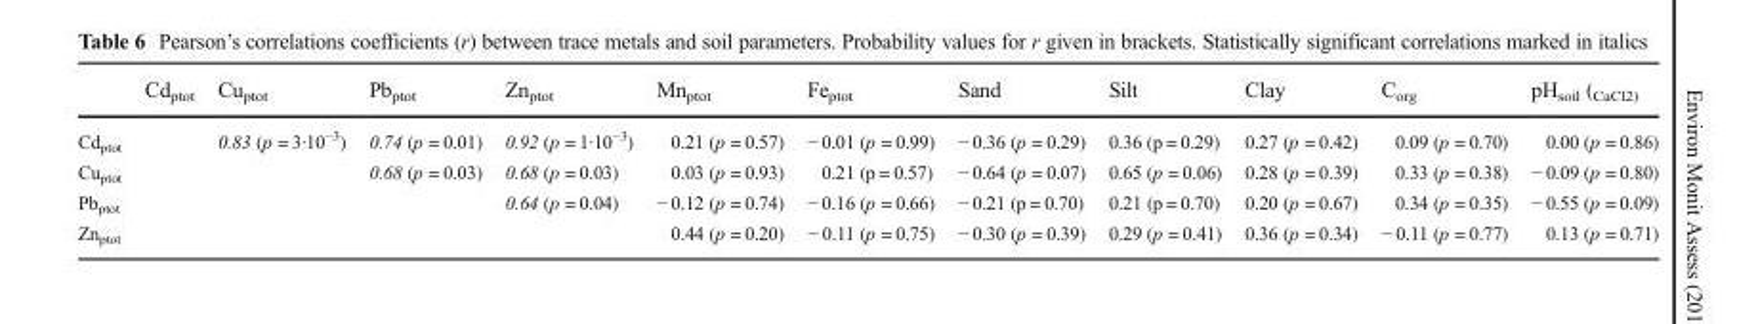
<table><thead><tr><td></td><td>Cd<sub>ptot</sub></td><td>Cu<sub>ptot</sub></td><td>Pb<sub>ptot</sub></td><td>Zn<sub>ptot</sub></td><td>Mn<sub>ptot</sub></td><td>Fe<sub>ptot</sub></td><td>Sand</td><td>Silt</td><td>Clay</td><td>C<sub>org</sub></td><td>pH<sub>soil</sub> (<sub>CaCl2)</sub></td></tr></thead><tbody><tr><td>Cd<sub>ptot</sub></td><td></td><td>0.83 (p = 3·10<sup>−3</sup>)</td><td>0.74 (p = 0.01)</td><td>0.92 (p = 1·10<sup>−3</sup>)</td><td>0.21 (p = 0.57)</td><td>− 0.01 (p = 0.99)</td><td>− 0.36 (p = 0.29)</td><td>0.36 (p = 0.29)</td><td>0.27 (p = 0.42)</td><td>0.09 (p = 0.70)</td><td>0.00 (p = 0.86)</td></tr><tr><td>Cu<sub>ptot</sub></td><td></td><td></td><td>0.68 (p = 0.03)</td><td>0.68 (p = 0.03)</td><td>0.03 (p = 0.93)</td><td>0.21 (p = 0.57)</td><td>− 0.64 (p = 0.07)</td><td>0.65 (p = 0.06)</td><td>0.28 (p = 0.39)</td><td>0.33 (p = 0.38)</td><td>− 0.09 (p = 0.80)</td></tr><tr><td>Pb<sub>ptot</sub></td><td></td><td></td><td></td><td>0.64 (p = 0.04)</td><td>− 0.12 (p = 0.74)</td><td>− 0.16 (p = 0.66)</td><td>− 0.21 (p = 0.70)</td><td>0.21 (p = 0.70)</td><td>0.20 (p = 0.67)</td><td>0.34 (p = 0.35)</td><td>− 0.55 (p = 0.09)</td></tr><tr><td>Zn<sub>ptot</sub></td><td></td><td></td><td></td><td></td><td>0.44 (p = 0.20)</td><td>− 0.11 (p = 0.75)</td><td>− 0.30 (p = 0.39)</td><td>0.29 (p = 0.41)</td><td>0.36 (p = 0.34)</td><td>− 0.11 (p = 0.77)</td><td>0.13 (p = 0.71)</td></tr></tbody></table>